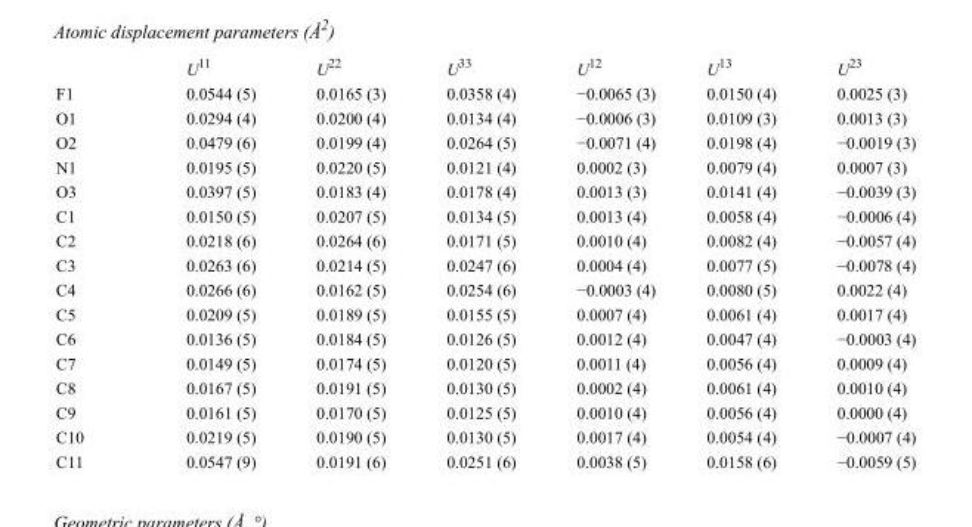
<table><thead><tr><td></td><td>U<sup>11</sup></td><td>U<sup>22</sup></td><td>U<sup>33</sup></td><td>U<sup>12</sup></td><td>U<sup>13</sup></td><td>U<sup>23</sup></td></tr></thead><tbody><tr><td>F1</td><td>0.0544 (5)</td><td>0.0165 (3)</td><td>0.0358 (4)</td><td>−0.0065 (3)</td><td>0.0150 (4)</td><td>0.0025 (3)</td></tr><tr><td>O1</td><td>0.0294 (4)</td><td>0.0200 (4)</td><td>0.0134 (4)</td><td>−0.0006 (3)</td><td>0.0109 (3)</td><td>0.0013 (3)</td></tr><tr><td>O2</td><td>0.0479 (6)</td><td>0.0199 (4)</td><td>0.0264 (5)</td><td>−0.0071 (4)</td><td>0.0198 (4)</td><td>−0.0019 (3)</td></tr><tr><td>N1</td><td>0.0195 (5)</td><td>0.0220 (5)</td><td>0.0121 (4)</td><td>0.0002 (3)</td><td>0.0079 (4)</td><td>0.0007 (3)</td></tr><tr><td>O3</td><td>0.0397 (5)</td><td>0.0183 (4)</td><td>0.0178 (4)</td><td>0.0013 (3)</td><td>0.0141 (4)</td><td>−0.0039 (3)</td></tr><tr><td>C1</td><td>0.0150 (5)</td><td>0.0207 (5)</td><td>0.0134 (5)</td><td>0.0013 (4)</td><td>0.0058 (4)</td><td>−0.0006 (4)</td></tr><tr><td>C2</td><td>0.0218 (6)</td><td>0.0264 (6)</td><td>0.0171 (5)</td><td>0.0010 (4)</td><td>0.0082 (4)</td><td>−0.0057 (4)</td></tr><tr><td>C3</td><td>0.0263 (6)</td><td>0.0214 (5)</td><td>0.0247 (6)</td><td>0.0004 (4)</td><td>0.0077 (5)</td><td>−0.0078 (4)</td></tr><tr><td>C4</td><td>0.0266 (6)</td><td>0.0162 (5)</td><td>0.0254 (6)</td><td>−0.0003 (4)</td><td>0.0080 (5)</td><td>0.0022 (4)</td></tr><tr><td>C5</td><td>0.0209 (5)</td><td>0.0189 (5)</td><td>0.0155 (5)</td><td>0.0007 (4)</td><td>0.0061 (4)</td><td>0.0017 (4)</td></tr><tr><td>C6</td><td>0.0136 (5)</td><td>0.0184 (5)</td><td>0.0126 (5)</td><td>0.0012 (4)</td><td>0.0047 (4)</td><td>−0.0003 (4)</td></tr><tr><td>C7</td><td>0.0149 (5)</td><td>0.0174 (5)</td><td>0.0120 (5)</td><td>0.0011 (4)</td><td>0.0056 (4)</td><td>0.0009 (4)</td></tr><tr><td>C8</td><td>0.0167 (5)</td><td>0.0191 (5)</td><td>0.0130 (5)</td><td>0.0002 (4)</td><td>0.0061 (4)</td><td>0.0010 (4)</td></tr><tr><td>C9</td><td>0.0161 (5)</td><td>0.0170 (5)</td><td>0.0125 (5)</td><td>0.0010 (4)</td><td>0.0056 (4)</td><td>0.0000 (4)</td></tr><tr><td>C10</td><td>0.0219 (5)</td><td>0.0190 (5)</td><td>0.0130 (5)</td><td>0.0017 (4)</td><td>0.0054 (4)</td><td>−0.0007 (4)</td></tr><tr><td>C11</td><td>0.0547 (9)</td><td>0.0191 (6)</td><td>0.0251 (6)</td><td>0.0038 (5)</td><td>0.0158 (6)</td><td>−0.0059 (5)</td></tr></tbody></table>